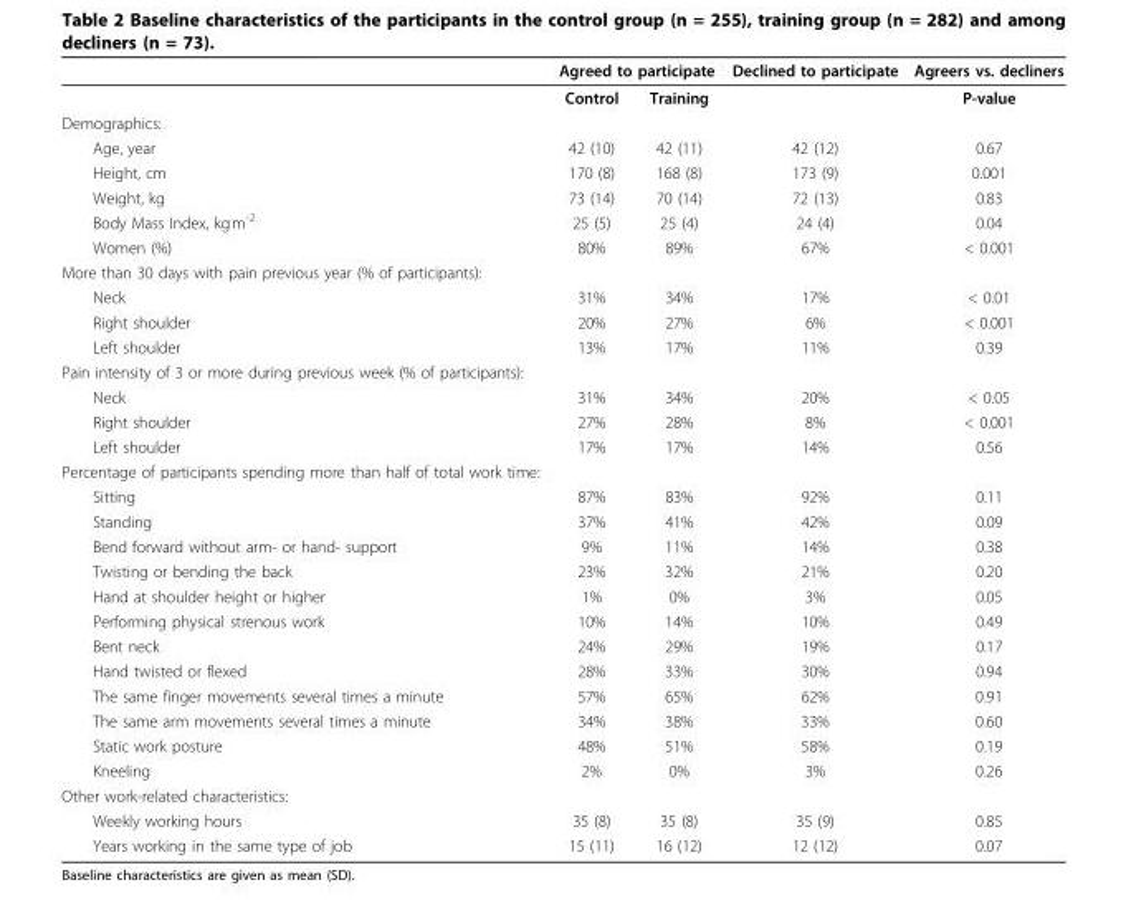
<table><thead><tr><td rowspan="2"></td><td colspan="2">Agreed to participate</td><td rowspan="2">Declined to participate</td><td rowspan="2">Agreers vs. decliners P-value</td></tr><tr><td>Control</td><td>Training</td></tr></thead><tbody><tr><td colspan="5">Demographics:</td></tr><tr><td>Age, year</td><td>42 (10)</td><td>42 (11)</td><td>42 (12)</td><td>0.67</td></tr><tr><td>Height, cm</td><td>170 (8)</td><td>168 (8)</td><td>173 (9)</td><td>0.001</td></tr><tr><td>Weight, kg</td><td>73 (14)</td><td>70 (14)</td><td>72 (13)</td><td>0.83</td></tr><tr><td>Body Mass Index, kg<sup>.</sup>m<sup>-2</sup></td><td>25 (5)</td><td>25 (4)</td><td>24 (4)</td><td>0.04</td></tr><tr><td>Women (%)</td><td>80%</td><td>89%</td><td>67%</td><td>&lt; 0.001</td></tr><tr><td colspan="5">More than 30 days with pain previous year (% of participants):</td></tr><tr><td>Neck</td><td>31%</td><td>34%</td><td>17%</td><td>&lt; 0.01</td></tr><tr><td>Right shoulder</td><td>20%</td><td>27%</td><td>6%</td><td>&lt; 0.001</td></tr><tr><td>Left shoulder</td><td>13%</td><td>17%</td><td>11%</td><td>0.39</td></tr><tr><td colspan="5">Pain intensity of 3 or more during previous week (% of participants):</td></tr><tr><td>Neck</td><td>31%</td><td>34%</td><td>20%</td><td>&lt; 0.05</td></tr><tr><td>Right shoulder</td><td>27%</td><td>28%</td><td>8%</td><td>&lt; 0.001</td></tr><tr><td>Left shoulder</td><td>17%</td><td>17%</td><td>14%</td><td>0.56</td></tr><tr><td colspan="5">Percentage of participants spending more than half of total work time:</td></tr><tr><td>Sitting</td><td>87%</td><td>83%</td><td>92%</td><td>0.11</td></tr><tr><td>Standing</td><td>37%</td><td>41%</td><td>42%</td><td>0.09</td></tr><tr><td>Bend forward without arm- or hand- support</td><td>9%</td><td>11%</td><td>14%</td><td>0.38</td></tr><tr><td>Twisting or bending the back</td><td>23%</td><td>32%</td><td>21%</td><td>0.20</td></tr><tr><td>Hand at shoulder height or higher</td><td>1%</td><td>0%</td><td>3%</td><td>0.05</td></tr><tr><td>Performing physical strenous work</td><td>10%</td><td>14%</td><td>10%</td><td>0.49</td></tr><tr><td>Bent neck</td><td>24%</td><td>29%</td><td>19%</td><td>0.17</td></tr><tr><td>Hand twisted or flexed</td><td>28%</td><td>33%</td><td>30%</td><td>0.94</td></tr><tr><td>The same finger movements several times a minute</td><td>57%</td><td>65%</td><td>62%</td><td>0.91</td></tr><tr><td>The same arm movements several times a minute</td><td>34%</td><td>38%</td><td>33%</td><td>0.60</td></tr><tr><td>Static work posture</td><td>48%</td><td>51%</td><td>58%</td><td>0.19</td></tr><tr><td>Kneeling</td><td>2%</td><td>0%</td><td>3%</td><td>0.26</td></tr><tr><td colspan="5">Other work-related characteristics:</td></tr><tr><td>Weekly working hours</td><td>35 (8)</td><td>35 (8)</td><td>35 (9)</td><td>0.85</td></tr><tr><td>Years working in the same type of job</td><td>15 (11)</td><td>16 (12)</td><td>12 (12)</td><td>0.07</td></tr></tbody></table>